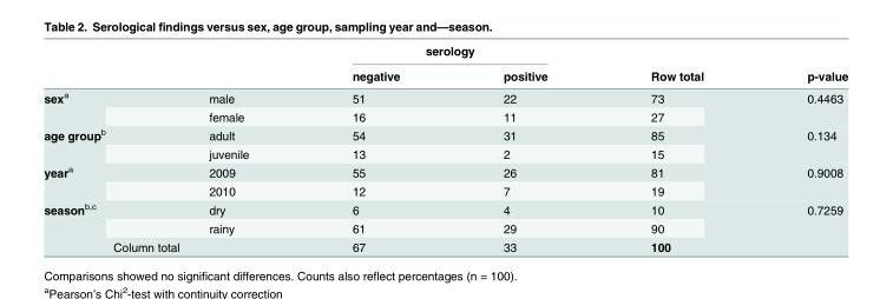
<table><thead><tr><td rowspan="2"></td><td rowspan="2"></td><td colspan="2">serology</td><td rowspan="2">Row total</td><td rowspan="2">p-value</td></tr><tr><td>negative</td><td>positive</td></tr></thead><tbody><tr><td rowspan="2">sex<sup>a</sup></td><td>male</td><td>51</td><td>22</td><td>73</td><td rowspan="2">0.4463</td></tr><tr><td>female</td><td>16</td><td>11</td><td>27</td></tr><tr><td rowspan="2">age group<sup>b</sup></td><td>adult</td><td>54</td><td>31</td><td>85</td><td rowspan="2">0.134</td></tr><tr><td>juvenile</td><td>13</td><td>2</td><td>15</td></tr><tr><td rowspan="2">year<sup>a</sup></td><td>2009</td><td>55</td><td>26</td><td>81</td><td rowspan="2">0.9008</td></tr><tr><td>2010</td><td>12</td><td>7</td><td>19</td></tr><tr><td rowspan="2">season<sup>b,c</sup></td><td>dry</td><td>6</td><td>4</td><td>10</td><td rowspan="2">0.7259</td></tr><tr><td>rainy</td><td>61</td><td>29</td><td>90</td></tr><tr><td colspan="2">Column total</td><td>67</td><td>33</td><td>100</td><td></td></tr></tbody></table>